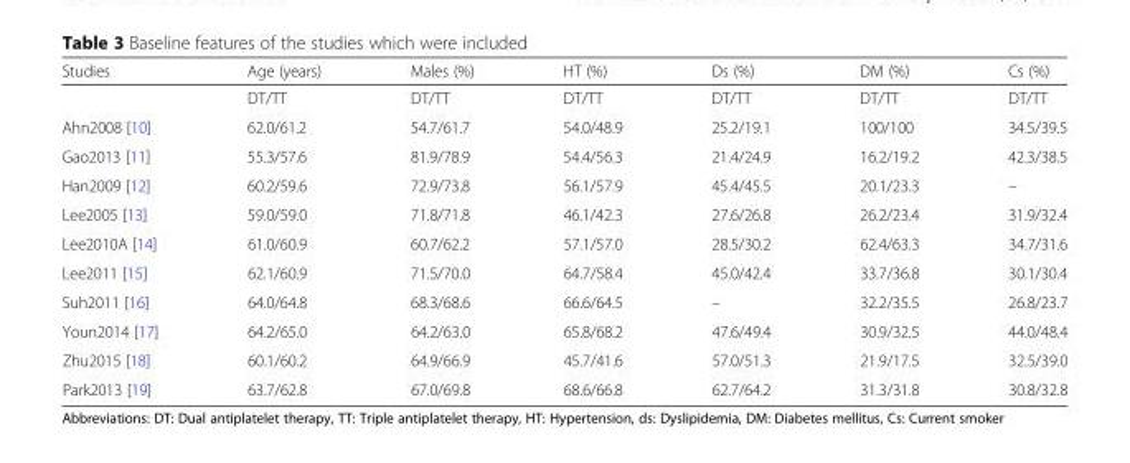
<table><thead><tr><td>Studies</td><td>Age (years)</td><td>Males (%)</td><td>HT (%)</td><td>Ds (%)</td><td>DM (%)</td><td>Cs (%)</td></tr></thead><tbody><tr><td></td><td>DT/TT</td><td>DT/TT</td><td>DT/TT</td><td>DT/TT</td><td>DT/TT</td><td>DT/TT</td></tr><tr><td>Ahn2008 [10]</td><td>62.0/61.2</td><td>54.7/61.7</td><td>54.0/48.9</td><td>25.2/19.1</td><td>100/100</td><td>34.5/39.5</td></tr><tr><td>Gao2013 [11]</td><td>55.3/57.6</td><td>81.9/78.9</td><td>54.4/56.3</td><td>21.4/24.9</td><td>16.2/19.2</td><td>42.3/38.5</td></tr><tr><td>Han2009 [12]</td><td>60.2/59.6</td><td>72.9/73.8</td><td>56.1/57.9</td><td>45.4/45.5</td><td>20.1/23.3</td><td>–</td></tr><tr><td>Lee2005 [13]</td><td>59.0/59.0</td><td>71.8/71.8</td><td>46.1/42.3</td><td>27.6/26.8</td><td>26.2/23.4</td><td>31.9/32.4</td></tr><tr><td>Lee2010A [14]</td><td>61.0/60.9</td><td>60.7/62.2</td><td>57.1/57.0</td><td>28.5/30.2</td><td>62.4/63.3</td><td>34.7/31.6</td></tr><tr><td>Lee2011 [15]</td><td>62.1/60.9</td><td>71.5/70.0</td><td>64.7/58.4</td><td>45.0/42.4</td><td>33.7/36.8</td><td>30.1/30.4</td></tr><tr><td>Suh2011 [16]</td><td>64.0/64.8</td><td>68.3/68.6</td><td>66.6/64.5</td><td>–</td><td>32.2/35.5</td><td>26.8/23.7</td></tr><tr><td>Youn2014 [17]</td><td>64.2/65.0</td><td>64.2/63.0</td><td>65.8/68.2</td><td>47.6/49.4</td><td>30.9/32.5</td><td>44.0/48.4</td></tr><tr><td>Zhu2015 [18]</td><td>60.1/60.2</td><td>64.9/66.9</td><td>45.7/41.6</td><td>57.0/51.3</td><td>21.9/17.5</td><td>32.5/39.0</td></tr><tr><td>Park2013 [19]</td><td>63.7/62.8</td><td>67.0/69.8</td><td>68.6/66.8</td><td>62.7/64.2</td><td>31.3/31.8</td><td>30.8/32.8</td></tr></tbody></table>